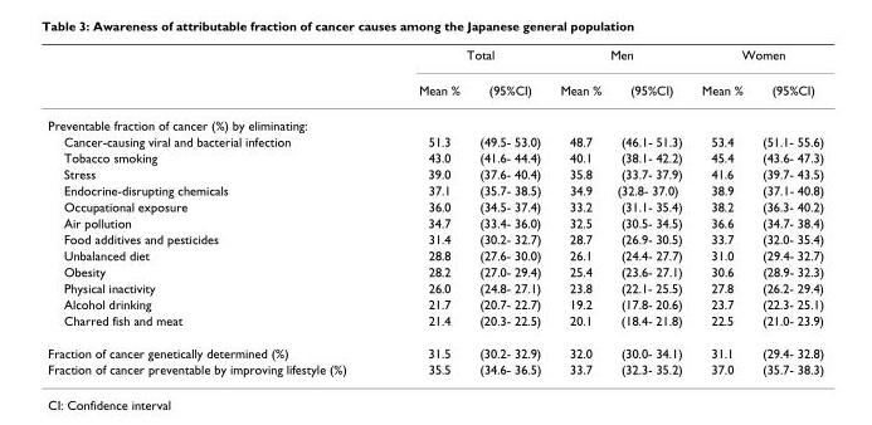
<table><thead><tr><td rowspan="2"></td><td colspan="2">Total</td><td colspan="2">Men</td><td colspan="2">Women</td></tr><tr><td>Mean %</td><td>(95%CI)</td><td>Mean %</td><td>(95%CI)</td><td>Mean %</td><td>(95%CI)</td></tr></thead><tbody><tr><td colspan="7">Preventable fraction of cancer (%) by eliminating:</td></tr><tr><td>Cancer-causing viral and bacterial infection</td><td>51.3</td><td>(49.5- 53.0)</td><td>48.7</td><td>(46.1- 51.3)</td><td>53.4</td><td>(51.1- 55.6)</td></tr><tr><td>Tobacco smoking</td><td>43.0</td><td>(41.6- 44.4)</td><td>40.1</td><td>(38.1- 42.2)</td><td>45.4</td><td>(43.6- 47.3)</td></tr><tr><td>Stress</td><td>39.0</td><td>(37.6- 40.4)</td><td>35.8</td><td>(33.7- 37.9)</td><td>41.6</td><td>(39.7- 43.5)</td></tr><tr><td>Endocrine-disrupting chemicals</td><td>37.1</td><td>(35.7- 38.5)</td><td>34.9</td><td>(32.8- 37.0)</td><td>38.9</td><td>(37.1- 40.8)</td></tr><tr><td>Occupational exposure</td><td>36.0</td><td>(34.5- 37.4)</td><td>33.2</td><td>(31.1- 35.4)</td><td>38.2</td><td>(36.3- 40.2)</td></tr><tr><td>Air pollution</td><td>34.7</td><td>(33.4- 36.0)</td><td>32.5</td><td>(30.5- 34.5)</td><td>36.6</td><td>(34.7- 38.4)</td></tr><tr><td>Food additives and pesticides</td><td>31.4</td><td>(30.2- 32.7)</td><td>28.7</td><td>(26.9- 30.5)</td><td>33.7</td><td>(32.0- 35.4)</td></tr><tr><td>Unbalanced diet</td><td>28.8</td><td>(27.6- 30.0)</td><td>26.1</td><td>(24.4- 27.7)</td><td>31.0</td><td>(29.4- 32.7)</td></tr><tr><td>Obesity</td><td>28.2</td><td>(27.0- 29.4)</td><td>25.4</td><td>(23.6- 27.1)</td><td>30.6</td><td>(28.9- 32.3)</td></tr><tr><td>Physical inactivity</td><td>26.0</td><td>(24.8- 27.1)</td><td>23.8</td><td>(22.1- 25.5)</td><td>27.8</td><td>(26.2- 29.4)</td></tr><tr><td>Alcohol drinking</td><td>21.7</td><td>(20.7- 22.7)</td><td>19.2</td><td>(17.8- 20.6)</td><td>23.7</td><td>(22.3- 25.1)</td></tr><tr><td>Charred fish and meat</td><td>21.4</td><td>(20.3- 22.5)</td><td>20.1</td><td>(18.4- 21.8)</td><td>22.5</td><td>(21.0- 23.9)</td></tr><tr><td>Fraction of cancer genetically determined (%)</td><td>31.5</td><td>(30.2- 32.9)</td><td>32.0</td><td>(30.0- 34.1)</td><td>31.1</td><td>(29.4- 32.8)</td></tr><tr><td>Fraction of cancer preventable by improving lifestyle (%)</td><td>35.5</td><td>(34.6- 36.5)</td><td>33.7</td><td>(32.3- 35.2)</td><td>37.0</td><td>(35.7- 38.3)</td></tr></tbody></table>